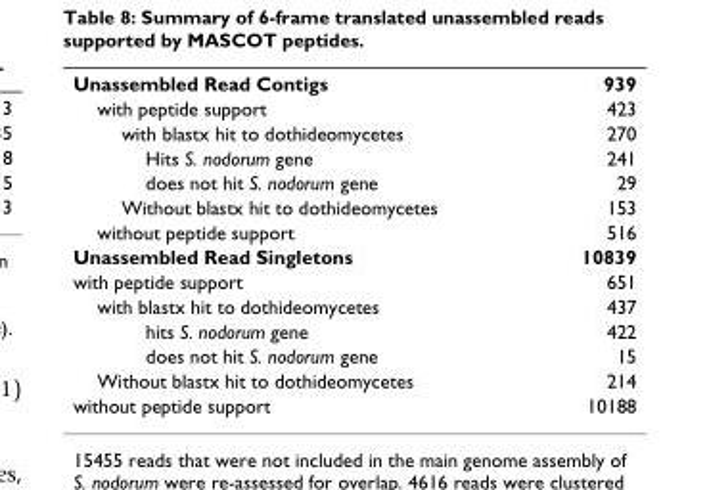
<table><tbody><tr><td>Unassembled Read Contigs</td><td>939</td></tr><tr><td>with peptide support</td><td>423</td></tr><tr><td>with blastx hit to dothideomycetes</td><td>270</td></tr><tr><td>Hits S. nodorum gene</td><td>241</td></tr><tr><td>does not hit S. nodorum gene</td><td>29</td></tr><tr><td>Without blastx hit to dothideomycetes</td><td>153</td></tr><tr><td>without peptide support</td><td>516</td></tr><tr><td>Unassembled Read Singletons</td><td>10839</td></tr><tr><td>with peptide support</td><td>651</td></tr><tr><td>with blastx hit to dothideomycetes</td><td>437</td></tr><tr><td>hits S. nodorum gene</td><td>422</td></tr><tr><td>does not hit S. nodorum gene</td><td>15</td></tr><tr><td>Without blastx hit to dothideomycetes</td><td>214</td></tr><tr><td>without peptide support</td><td>10188</td></tr></tbody></table>